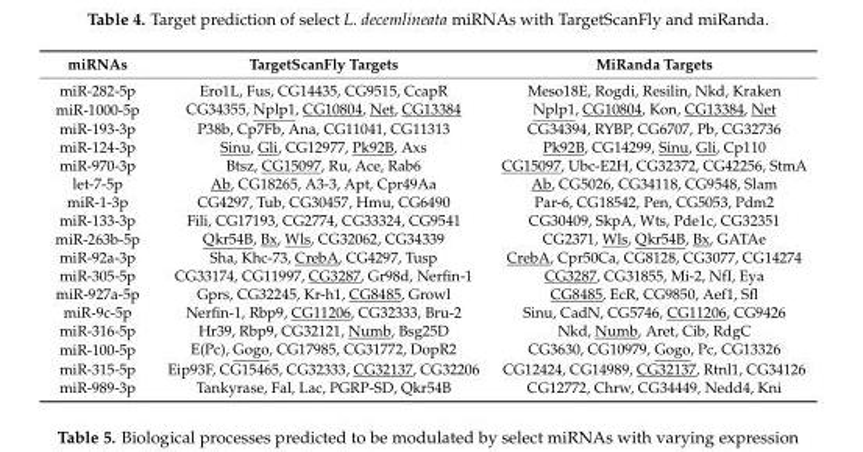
<table><thead><tr><td>miRNAs</td><td>TargetScanFly Targets</td><td>MiRanda Targets</td></tr></thead><tbody><tr><td>miR-282-5p</td><td>Ero1L, Fus, CG14435, CG9515, CcapR</td><td>Meso18E, Rogdi, Resilin, Nkd, Kraken</td></tr><tr><td>miR-1000-5p</td><td>CG34355, Nplp1, CG10804, Net, CG13384</td><td>Nplp1, CG10804, Kon, CG13384, Net</td></tr><tr><td>miR-193-3p</td><td>P38b, Cp7Fb, Ana, CG11041, CG11313</td><td>CG34394, RYBP, CG6707, Pb, CG32736</td></tr><tr><td>miR-124-3p</td><td>Sinu, Gli, CG12977, Pk92B, Axs</td><td>Pk92B, CG14299, Sinu, Gli, Cp110</td></tr><tr><td>miR-970-3p</td><td>Btsz, CG15097, Ru, Ace, Rab6</td><td>CG15097, Ubc-E2H, CG32372, CG42256, StmA</td></tr><tr><td>let-7-5p</td><td>Ab, CG18265, A3-3, Apt, Cpr49Aa</td><td>Ab, CG5026, CG34118, CG9548, Slam</td></tr><tr><td>miR-1-3p</td><td>CG4297, Tub, CG30457, Hmu, CG6490</td><td>Par-6, CG18542, Pen, CG5053, Pdm2</td></tr><tr><td>miR-133-3p</td><td>Fili, CG17193, CG2774, CG33324, CG9541</td><td>CG30409, SkpA, Wts, Pde1c, CG32351</td></tr><tr><td>miR-263b-5p</td><td>Qkr54B, Bx, Wls, CG32062, CG34339</td><td>CG2371, Wls, Qkr54B, Bx, GATAe</td></tr><tr><td>miR-92a-3p</td><td>Sha, Khc-73, CrebA, CG4297, Tusp</td><td>CrebA, Cpr50Ca, CG8128, CG3077, CG14274</td></tr><tr><td>miR-305-5p</td><td>CG33174, CG11997, CG3287, Gr98d, Nerfin-1</td><td>CG3287, CG31855, Mi-2, NfI, Eya</td></tr><tr><td>miR-927a-5p</td><td>Gprs, CG32245, Kr-h1, CG8485, Growl</td><td>CG8485, EcR, CG9850, Aef1, Sfl</td></tr><tr><td>miR-9c-5p</td><td>Nerfin-1, Rbp9, CG11206, CG32333, Bru-2</td><td>Sinu, CadN, CG5746, CG11206, CG9426</td></tr><tr><td>miR-316-5p</td><td>Hr39, Rbp9, CG32121, Numb, Bsg25D</td><td>Nkd, Numb, Aret, Cib, RdgC</td></tr><tr><td>miR-100-5p</td><td>E(Pc), Gogo, CG17985, CG31772, DopR2</td><td>CG3630, CG10979, Gogo, Pc, CG13326</td></tr><tr><td>miR-315-5p</td><td>Eip93F, CG15465, CG32333, CG32137, CG32206</td><td>CG12424, CG14989, CG32137, Rtnl1, CG34126</td></tr><tr><td>miR-989-3p</td><td>Tankyrase, Fal, Lac, PGRP-SD, Qkr54B</td><td>CG12772, Chrw, CG34449, Nedd4, Kni</td></tr></tbody></table>